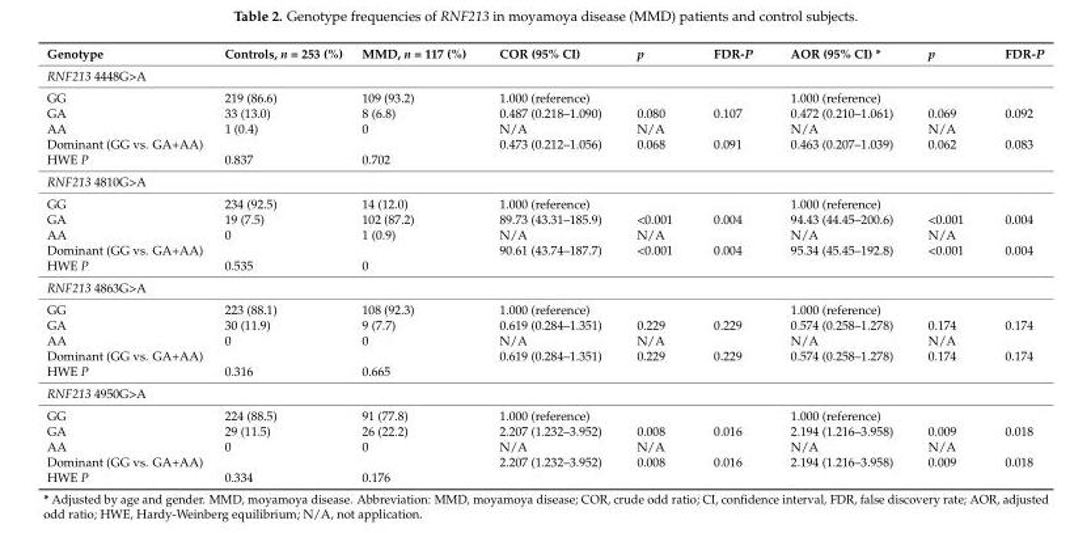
<table><thead><tr><td>Genotype</td><td>Controls, n = 253 (%)</td><td>MMD, n = 117 (%)</td><td>COR (95% CI)</td><td>p</td><td>FDR-P</td><td>AOR (95% CI) *</td><td>p</td><td>FDR-P</td></tr></thead><tbody><tr><td colspan="9">RNF213 4448G&gt;A</td></tr><tr><td>GG</td><td>219 (86.6)</td><td>109 (93.2)</td><td>1.000 (reference)</td><td></td><td></td><td>1.000 (reference)</td><td></td><td></td></tr><tr><td>GA</td><td>33 (13.0)</td><td>8 (6.8)</td><td>0.487 (0.218–1.090)</td><td>0.080</td><td>0.107</td><td>0.472 (0.210–1.061)</td><td>0.069</td><td>0.092</td></tr><tr><td>AA</td><td>1 (0.4)</td><td>0</td><td>N/A</td><td>N/A</td><td></td><td>N/A</td><td>N/A</td><td></td></tr><tr><td>Dominant (GG vs. GA+AA)</td><td></td><td></td><td>0.473 (0.212–1.056)</td><td>0.068</td><td>0.091</td><td>0.463 (0.207–1.039)</td><td>0.062</td><td>0.083</td></tr><tr><td>HWE P</td><td>0.837</td><td>0.702</td><td></td><td></td><td></td><td></td><td></td><td></td></tr><tr><td colspan="9">RNF213 4810G&gt;A</td></tr><tr><td>GG</td><td>234 (92.5)</td><td>14 (12.0)</td><td>1.000 (reference)</td><td></td><td></td><td>1.000 (reference)</td><td></td><td></td></tr><tr><td>GA</td><td>19 (7.5)</td><td>102 (87.2)</td><td>89.73 (43.31–185.9)</td><td>&lt;0.001</td><td>0.004</td><td>94.43 (44.45–200.6)</td><td>&lt;0.001</td><td>0.004</td></tr><tr><td>AA</td><td>0</td><td>1 (0.9)</td><td>N/A</td><td>N/A</td><td></td><td>N/A</td><td>N/A</td><td></td></tr><tr><td>Dominant (GG vs. GA+AA)</td><td></td><td></td><td>90.61 (43.74–187.7)</td><td>&lt;0.001</td><td>0.004</td><td>95.34 (45.45–192.8)</td><td>&lt;0.001</td><td>0.004</td></tr><tr><td>HWE P</td><td>0.535</td><td>0</td><td></td><td></td><td></td><td></td><td></td><td></td></tr><tr><td colspan="9">RNF213 4863G&gt;A</td></tr><tr><td>GG</td><td>223 (88.1)</td><td>108 (92.3)</td><td>1.000 (reference)</td><td></td><td></td><td>1.000 (reference)</td><td></td><td></td></tr><tr><td>GA</td><td>30 (11.9)</td><td>9 (7.7)</td><td>0.619 (0.284–1.351)</td><td>0.229</td><td>0.229</td><td>0.574 (0.258–1.278)</td><td>0.174</td><td>0.174</td></tr><tr><td>AA</td><td>0</td><td>0</td><td>N/A</td><td>N/A</td><td></td><td>N/A</td><td>N/A</td><td></td></tr><tr><td>Dominant (GG vs. GA+AA)</td><td></td><td></td><td>0.619 (0.284–1.351)</td><td>0.229</td><td>0.229</td><td>0.574 (0.258–1.278)</td><td>0.174</td><td>0.174</td></tr><tr><td>HWE P</td><td>0.316</td><td>0.665</td><td></td><td></td><td></td><td></td><td></td><td></td></tr><tr><td colspan="9">RNF213 4950G&gt;A</td></tr><tr><td>GG</td><td>224 (88.5)</td><td>91 (77.8)</td><td>1.000 (reference)</td><td></td><td></td><td>1.000 (reference)</td><td></td><td></td></tr><tr><td>GA</td><td>29 (11.5)</td><td>26 (22.2)</td><td>2.207 (1.232–3.952)</td><td>0.008</td><td>0.016</td><td>2.194 (1.216–3.958)</td><td>0.009</td><td>0.018</td></tr><tr><td>AA</td><td>0</td><td>0</td><td>N/A</td><td>N/A</td><td></td><td>N/A</td><td>N/A</td><td></td></tr><tr><td>Dominant (GG vs. GA+AA)</td><td></td><td></td><td>2.207 (1.232–3.952)</td><td>0.008</td><td>0.016</td><td>2.194 (1.216–3.958)</td><td>0.009</td><td>0.018</td></tr><tr><td>HWE P</td><td>0.334</td><td>0.176</td><td></td><td></td><td></td><td></td><td></td><td></td></tr></tbody></table>